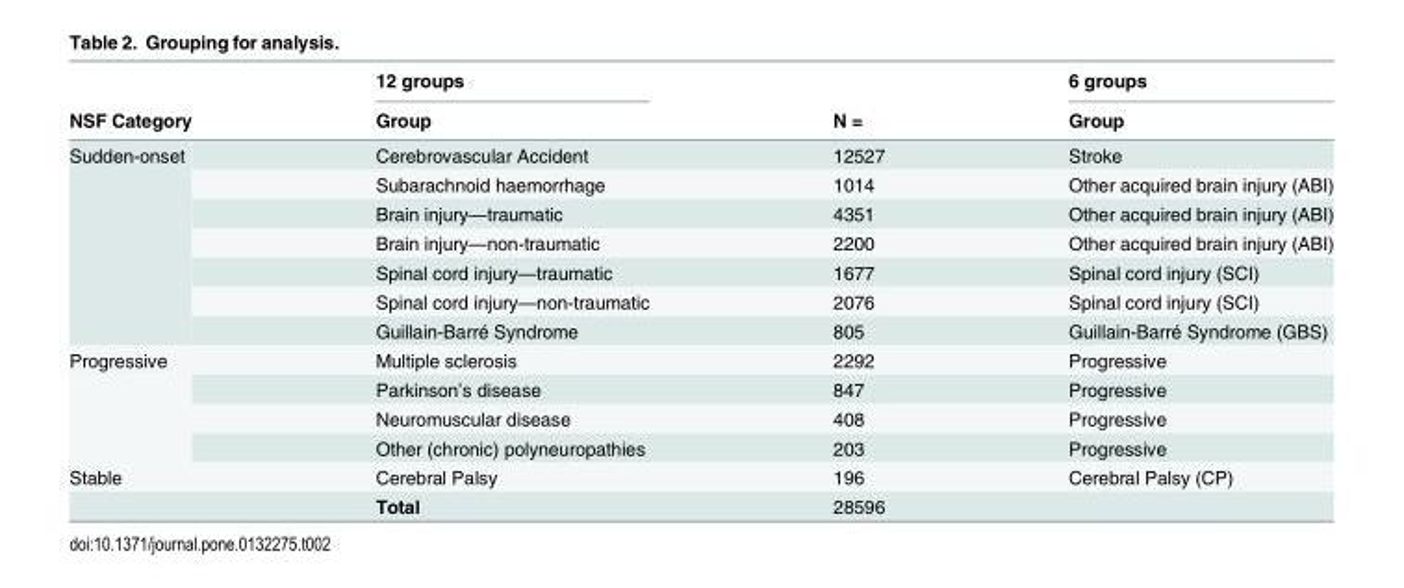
<table><thead><tr><td rowspan="2">NSF Category</td><td rowspan="2">12 groups Group</td><td rowspan="2">N =</td><td rowspan="2">6 groups Group</td></tr><tr></tr></thead><tbody><tr><td rowspan="7">Sudden-onset</td><td>Cerebrovascular Accident</td><td>12527</td><td>Stroke</td></tr><tr><td>Subarachnoid haemorrhage</td><td>1014</td><td>Other acquired brain injury (ABI)</td></tr><tr><td>Brain injury—traumatic</td><td>4351</td><td>Other acquired brain injury (ABI)</td></tr><tr><td>Brain injury—non-traumatic</td><td>2200</td><td>Other acquired brain injury (ABI)</td></tr><tr><td>Spinal cord injury—traumatic</td><td>1677</td><td>Spinal cord injury (SCI)</td></tr><tr><td>Spinal cord injury—non-traumatic</td><td>2076</td><td>Spinal cord injury (SCI)</td></tr><tr><td>Guillain-Barré Syndrome</td><td>805</td><td>Guillain-Barré Syndrome (GBS)</td></tr><tr><td rowspan="4">Progressive</td><td>Multiple sclerosis</td><td>2292</td><td>Progressive</td></tr><tr><td>Parkinson’s disease</td><td>847</td><td>Progressive</td></tr><tr><td>Neuromuscular disease</td><td>408</td><td>Progressive</td></tr><tr><td>Other (chronic) polyneuropathies</td><td>203</td><td>Progressive</td></tr><tr><td rowspan="2">Stable</td><td>Cerebral Palsy</td><td>196</td><td>Cerebral Palsy (CP)</td></tr><tr><td>Total</td><td>28596</td><td></td></tr></tbody></table>